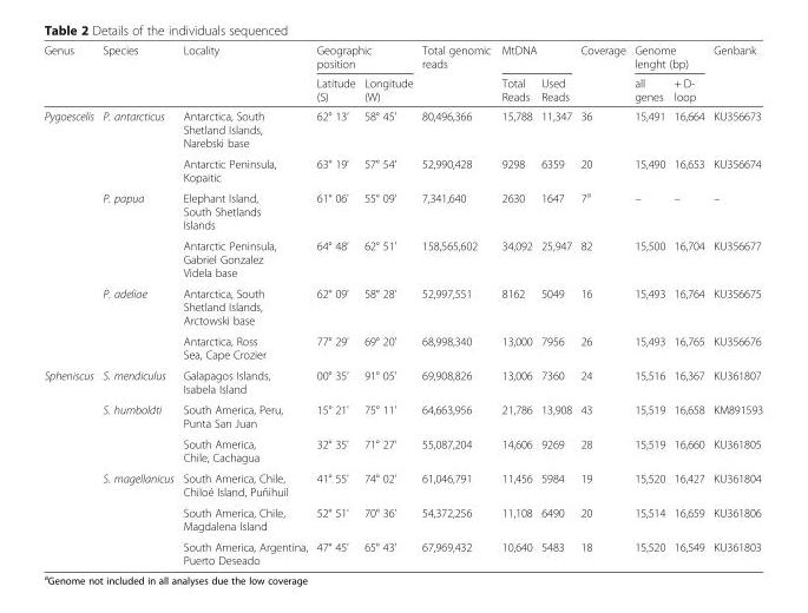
<table><thead><tr><td rowspan="2">Genus</td><td rowspan="2">Species</td><td rowspan="2">Locality</td><td colspan="2">Geographic position</td><td rowspan="2">Total genomic reads</td><td colspan="2">MtDNA</td><td rowspan="2">Coverage</td><td colspan="2">Genome lenght (bp)</td><td rowspan="2">Genbank</td></tr><tr><td>Latitude (S)</td><td>Longitude (W)</td><td>Total Reads</td><td>Used Reads</td><td>all genes</td><td>+ D- loop</td></tr></thead><tbody><tr><td rowspan="6">Pygoescelis</td><td>P. antarcticus</td><td>Antarctica, South Shetland Islands, Narebski base</td><td>62° 13’</td><td>58° 45’</td><td>80,496,366</td><td>15,788</td><td>11,347</td><td>36</td><td>15,491</td><td>16,664</td><td>KU356673</td></tr><tr><td></td><td>Antarctic Peninsula, Kopaitic</td><td>63° 19’</td><td>57° 54’</td><td>52,990,428</td><td>9298</td><td>6359</td><td>20</td><td>15,490</td><td>16,653</td><td>KU356674</td></tr><tr><td>P. papua</td><td>Elephant Island, South Shetlands Islands</td><td>61° 06’</td><td>55° 09’</td><td>7,341,640</td><td>2630</td><td>1647</td><td>7<sup>a</sup></td><td>–</td><td>–</td><td>–</td></tr><tr><td></td><td>Antarctic Peninsula, Gabriel Gonzalez Videla base</td><td>64° 48’</td><td>62° 51’</td><td>158,565,602</td><td>34,092</td><td>25,947</td><td>82</td><td>15,500</td><td>16,704</td><td>KU356677</td></tr><tr><td>P. adeliae</td><td>Antarctica, South Shetland Islands, Arctowski base</td><td>62° 09’</td><td>58° 28’</td><td>52,997,551</td><td>8162</td><td>5049</td><td>16</td><td>15,493</td><td>16,764</td><td>KU356675</td></tr><tr><td></td><td>Antarctica, Ross Sea, Cape Crozier</td><td>77° 29’</td><td>69° 20’</td><td>68,998,340</td><td>13,000</td><td>7956</td><td>26</td><td>15,493</td><td>16,765</td><td>KU356676</td></tr><tr><td rowspan="6">Spheniscus</td><td>S. mendiculus</td><td>Galapagos Islands, Isabela Island</td><td>00° 35’</td><td>91° 05’</td><td>69,908,826</td><td>13,006</td><td>7360</td><td>24</td><td>15,516</td><td>16,367</td><td>KU361807</td></tr><tr><td>S. humboldti</td><td>South America, Peru, Punta San Juan</td><td>15° 21’</td><td>75° 11’</td><td>64,663,956</td><td>21,786</td><td>13,908</td><td>43</td><td>15,519</td><td>16,658</td><td>KM891593</td></tr><tr><td></td><td>South America, Chile, Cachagua</td><td>32° 35’</td><td>71° 27’</td><td>55,087,204</td><td>14,606</td><td>9269</td><td>28</td><td>15,519</td><td>16,660</td><td>KU361805</td></tr><tr><td>S. magellanicus</td><td>South America, Chile, Chiloé Island, Puñihuil</td><td>41° 55’</td><td>74° 02’</td><td>61,046,791</td><td>11,456</td><td>5984</td><td>19</td><td>15,520</td><td>16,427</td><td>KU361804</td></tr><tr><td></td><td>South America, Chile, Magdalena Island</td><td>52° 51’</td><td>70° 36’</td><td>54,372,256</td><td>11,108</td><td>6490</td><td>20</td><td>15,514</td><td>16,659</td><td>KU361806</td></tr><tr><td></td><td>South America, Argentina, Puerto Deseado</td><td>47° 45’</td><td>65° 43’</td><td>67,969,432</td><td>10,640</td><td>5483</td><td>18</td><td>15,520</td><td>16,549</td><td>KU361803</td></tr></tbody></table>